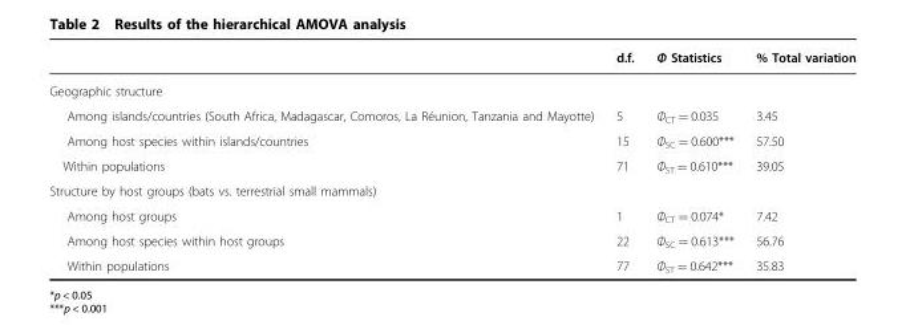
<table><thead><tr><td></td><td>d.f.</td><td>Φ Statistics</td><td>% Total variation</td></tr></thead><tbody><tr><td colspan="4">Geographic structure</td></tr><tr><td>Among islands/countries (South Africa, Madagascar, Comoros, La Réunion, Tanzania and Mayotte)</td><td>5</td><td>Φ<sub>CT</sub> = 0.035</td><td>3.45</td></tr><tr><td>Among host species within islands/countries</td><td>15</td><td>Φ<sub>SC</sub> = 0.600***</td><td>57.50</td></tr><tr><td>Within populations</td><td>71</td><td>Φ<sub>ST</sub> = 0.610***</td><td>39.05</td></tr><tr><td colspan="4">Structure by host groups (bats vs. terrestrial small mammals)</td></tr><tr><td>Among host groups</td><td>1</td><td>Φ<sub>CT</sub> = 0.074*</td><td>7.42</td></tr><tr><td>Among host species within host groups</td><td>22</td><td>Φ<sub>SC</sub> = 0.613***</td><td>56.76</td></tr><tr><td>Within populations</td><td>77</td><td>Φ<sub>ST</sub> = 0.642***</td><td>35.83</td></tr></tbody></table>